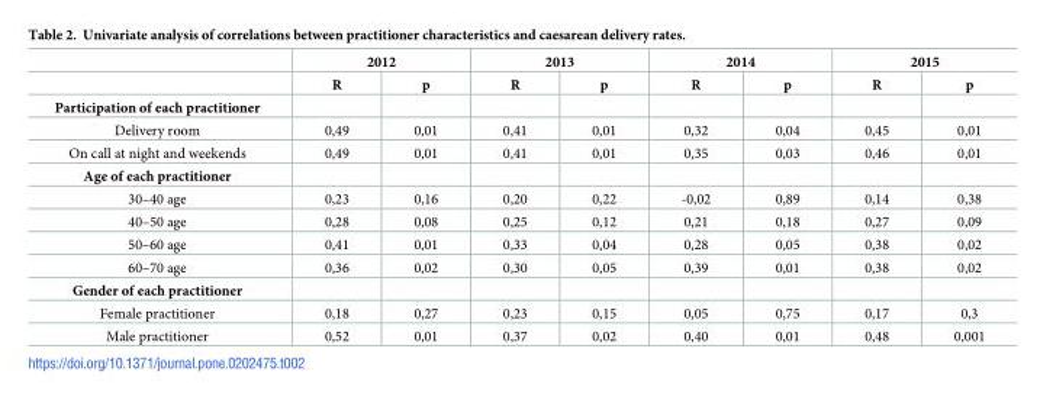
<table><thead><tr><td rowspan="2"></td><td colspan="2">2012</td><td colspan="2">2013</td><td colspan="2">2014</td><td colspan="2">2015</td></tr><tr><td>R</td><td>p</td><td>R</td><td>p</td><td>R</td><td>p</td><td>R</td><td>p</td></tr></thead><tbody><tr><td colspan="9">Participation of each practitioner</td></tr><tr><td>Delivery room</td><td>0,49</td><td>0,01</td><td>0,41</td><td>0,01</td><td>0,32</td><td>0,04</td><td>0,45</td><td>0,01</td></tr><tr><td>On call at night and weekends</td><td>0,49</td><td>0,01</td><td>0,41</td><td>0,01</td><td>0,35</td><td>0,03</td><td>0,46</td><td>0,01</td></tr><tr><td colspan="9">Age of each practitioner</td></tr><tr><td>30–40 age</td><td>0,23</td><td>0,16</td><td>0,20</td><td>0,22</td><td>-0,02</td><td>0,89</td><td>0,14</td><td>0,38</td></tr><tr><td>40–50 age</td><td>0,28</td><td>0,08</td><td>0,25</td><td>0,12</td><td>0,21</td><td>0,18</td><td>0,27</td><td>0,09</td></tr><tr><td>50–60 age</td><td>0,41</td><td>0,01</td><td>0,33</td><td>0,04</td><td>0,28</td><td>0,05</td><td>0,38</td><td>0,02</td></tr><tr><td>60–70 age</td><td>0,36</td><td>0,02</td><td>0,30</td><td>0,05</td><td>0,39</td><td>0,01</td><td>0,38</td><td>0,02</td></tr><tr><td colspan="9">Gender of each practitioner</td></tr><tr><td>Female practitioner</td><td>0,18</td><td>0,27</td><td>0,23</td><td>0,15</td><td>0,05</td><td>0,75</td><td>0,17</td><td>0,3</td></tr><tr><td>Male practitioner</td><td>0,52</td><td>0,01</td><td>0,37</td><td>0,02</td><td>0,40</td><td>0,01</td><td>0,48</td><td>0,001</td></tr></tbody></table>